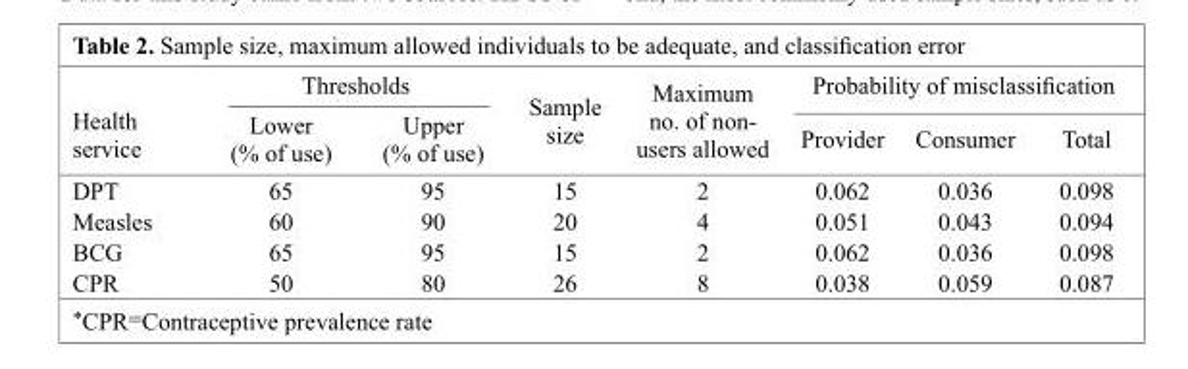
<table><thead><tr><td rowspan="2">Health service</td><td colspan="2">Thresholds</td><td rowspan="2">Sample size</td><td rowspan="2">Maximum no. of non- users allowed</td><td colspan="3">Probability of misclassification</td></tr><tr><td>Lower (% of use)</td><td>Upper (% of use)</td><td>Provider</td><td>Consumer</td><td>Total</td></tr></thead><tbody><tr><td>DPT</td><td>65</td><td>95</td><td>15</td><td>2</td><td>0.062</td><td>0.036</td><td>0.098</td></tr><tr><td>Measles</td><td>60</td><td>90</td><td>20</td><td>4</td><td>0.051</td><td>0.043</td><td>0.094</td></tr><tr><td>BCG</td><td>65</td><td>95</td><td>15</td><td>2</td><td>0.062</td><td>0.036</td><td>0.098</td></tr><tr><td>CPR</td><td>50</td><td>80</td><td>26</td><td>8</td><td>0.038</td><td>0.059</td><td>0.087</td></tr></tbody></table>